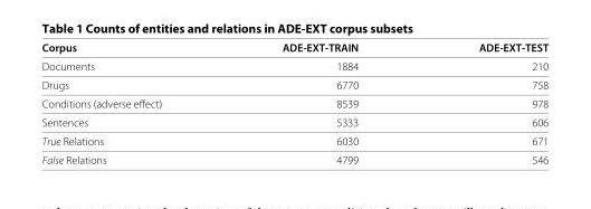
<table><thead><tr><td>Corpus</td><td>ADE-EXT-TRAIN</td><td>ADE-EXT-TEST</td></tr></thead><tbody><tr><td>Documents</td><td>1884</td><td>210</td></tr><tr><td>Drugs</td><td>6770</td><td>758</td></tr><tr><td>Conditions (adverse effect)</td><td>8539</td><td>978</td></tr><tr><td>Sentences</td><td>5333</td><td>606</td></tr><tr><td>True Relations</td><td>6030</td><td>671</td></tr><tr><td>False Relations</td><td>4799</td><td>546</td></tr></tbody></table>